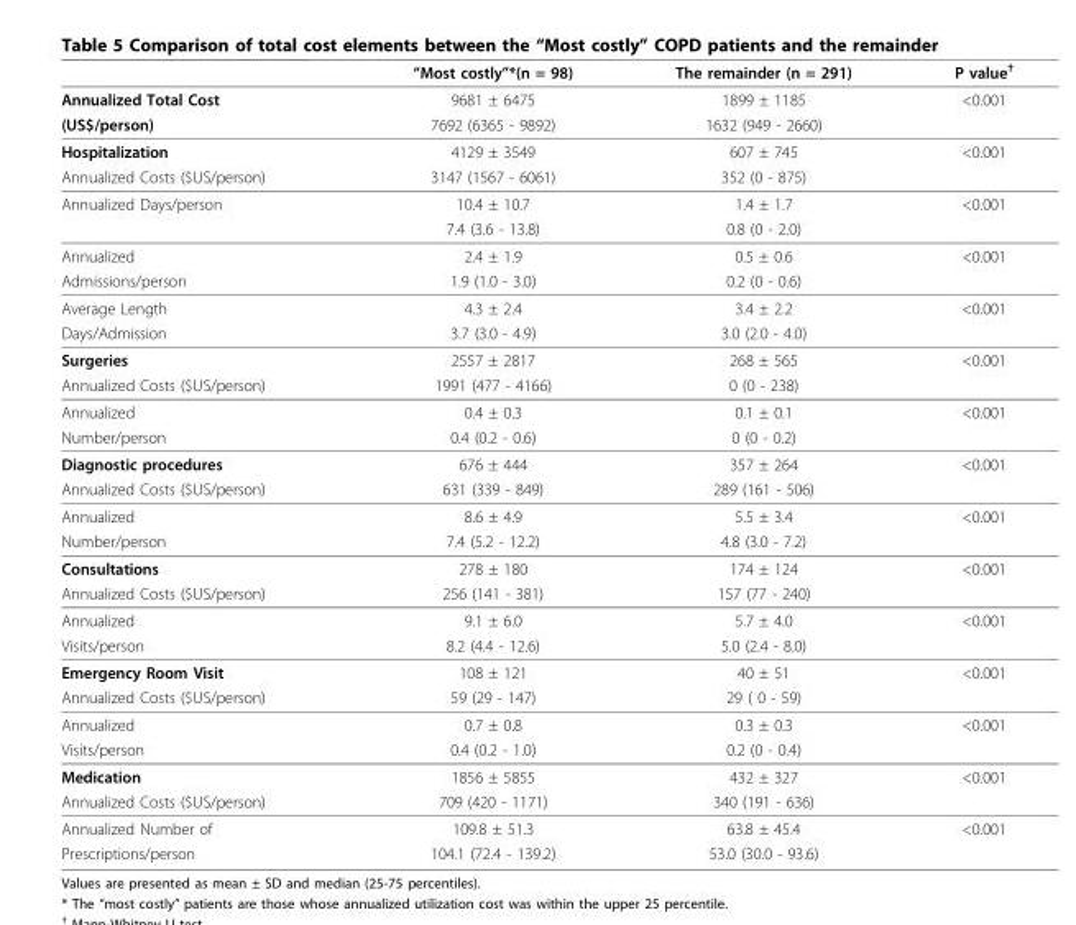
<table><thead><tr><td></td><td>“Most costly”*(n = 98)</td><td>The remainder (n = 291)</td><td>P value<sup>†</sup></td></tr></thead><tbody><tr><td>Annualized Total Cost</td><td>9681 ± 6475</td><td>1899 ± 1185</td><td>&lt;0.001</td></tr><tr><td>(US$/person)</td><td>7692 (6365 - 9892)</td><td>1632 (949 - 2660)</td><td></td></tr><tr><td>Hospitalization</td><td>4129 ± 3549</td><td>607 ± 745</td><td>&lt;0.001</td></tr><tr><td>Annualized Costs ($US/person)</td><td>3147 (1567 - 6061)</td><td>352 (0 - 875)</td><td></td></tr><tr><td rowspan="2">Annualized Days/person</td><td>10.4 ± 10.7</td><td>1.4 ± 1.7</td><td>&lt;0.001</td></tr><tr><td>7.4 (3.6 - 13.8)</td><td>0.8 (0 - 2.0)</td><td></td></tr><tr><td>Annualized</td><td>2.4 ± 1.9</td><td>0.5 ± 0.6</td><td>&lt;0.001</td></tr><tr><td>Admissions/person</td><td>1.9 (1.0 - 3.0)</td><td>0.2 (0 - 0.6)</td><td></td></tr><tr><td>Average Length</td><td>4.3 ± 2.4</td><td>3.4 ± 2.2</td><td>&lt;0.001</td></tr><tr><td>Days/Admission</td><td>3.7 (3.0 - 4.9)</td><td>3.0 (2.0 - 4.0)</td><td></td></tr><tr><td>Surgeries</td><td>2557 ± 2817</td><td>268 ± 565</td><td>&lt;0.001</td></tr><tr><td>Annualized Costs ($US/person)</td><td>1991 (477 - 4166)</td><td>0 (0 - 238)</td><td></td></tr><tr><td>Annualized</td><td>0.4 ± 0.3</td><td>0.1 ± 0.1</td><td>&lt;0.001</td></tr><tr><td>Number/person</td><td>0.4 (0.2 - 0.6)</td><td>0 (0 - 0.2)</td><td></td></tr><tr><td>Diagnostic procedures</td><td>676 ± 444</td><td>357 ± 264</td><td>&lt;0.001</td></tr><tr><td>Annualized Costs ($US/person)</td><td>631 (339 - 849)</td><td>289 (161 - 506)</td><td></td></tr><tr><td>Annualized</td><td>8.6 ± 4.9</td><td>5.5 ± 3.4</td><td>&lt;0.001</td></tr><tr><td>Number/person</td><td>7.4 (5.2 - 12.2)</td><td>4.8 (3.0 - 7.2)</td><td></td></tr><tr><td>Consultations</td><td>278 ± 180</td><td>174 ± 124</td><td>&lt;0.001</td></tr><tr><td>Annualized Costs ($US/person)</td><td>256 (141 - 381)</td><td>157 (77 - 240)</td><td></td></tr><tr><td>Annualized</td><td>9.1 ± 6.0</td><td>5.7 ± 4.0</td><td>&lt;0.001</td></tr><tr><td>Visits/person</td><td>8.2 (4.4 - 12.6)</td><td>5.0 (2.4 - 8.0)</td><td></td></tr><tr><td>Emergency Room Visit</td><td>108 ± 121</td><td>40 ± 51</td><td>&lt;0.001</td></tr><tr><td>Annualized Costs ($US/person)</td><td>59 (29 - 147)</td><td>29 ( 0 - 59)</td><td></td></tr><tr><td>Annualized</td><td>0.7 ± 0.8</td><td>0.3 ± 0.3</td><td>&lt;0.001</td></tr><tr><td>Visits/person</td><td>0.4 (0.2 - 1.0)</td><td>0.2 (0 - 0.4)</td><td></td></tr><tr><td>Medication</td><td>1856 ± 5855</td><td>432 ± 327</td><td>&lt;0.001</td></tr><tr><td>Annualized Costs ($US/person)</td><td>709 (420 - 1171)</td><td>340 (191 - 636)</td><td></td></tr><tr><td>Annualized Number of</td><td>109.8 ± 51.3</td><td>63.8 ± 45.4</td><td>&lt;0.001</td></tr><tr><td>Prescriptions/person</td><td>104.1 (72.4 - 139.2)</td><td>53.0 (30.0 - 93.6)</td><td></td></tr></tbody></table>